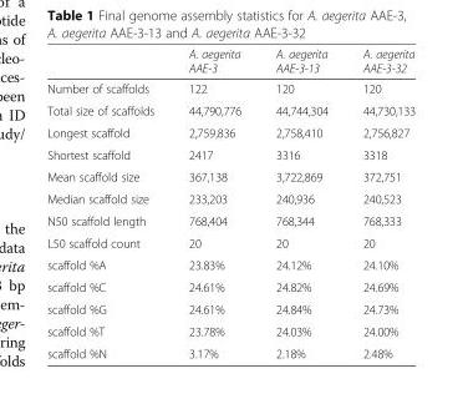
<table><thead><tr><td></td><td>A. aegerita AAE-3</td><td>A. aegerita AAE-3-13</td><td>A. aegerita AAE-3-32</td></tr></thead><tbody><tr><td>Number of scaffolds</td><td>122</td><td>120</td><td>120</td></tr><tr><td>Total size of scaffolds</td><td>44,790,776</td><td>44,744,304</td><td>44,730,133</td></tr><tr><td>Longest scaffold</td><td>2,759,836</td><td>2,758,410</td><td>2,756,827</td></tr><tr><td>Shortest scaffold</td><td>2417</td><td>3316</td><td>3318</td></tr><tr><td>Mean scaffold size</td><td>367,138</td><td>3,722,869</td><td>372,751</td></tr><tr><td>Median scaffold size</td><td>233,203</td><td>240,936</td><td>240,523</td></tr><tr><td>N50 scaffold length</td><td>768,404</td><td>768,344</td><td>768,333</td></tr><tr><td>L50 scaffold count</td><td>20</td><td>20</td><td>20</td></tr><tr><td>scaffold %A</td><td>23.83%</td><td>24.12%</td><td>24.10%</td></tr><tr><td>scaffold %C</td><td>24.61%</td><td>24.82%</td><td>24.69%</td></tr><tr><td>scaffold %G</td><td>24.61%</td><td>24.84%</td><td>24.73%</td></tr><tr><td>scaffold %T</td><td>23.78%</td><td>24.03%</td><td>24.00%</td></tr><tr><td>scaffold %N</td><td>3.17%</td><td>2.18%</td><td>2.48%</td></tr></tbody></table>